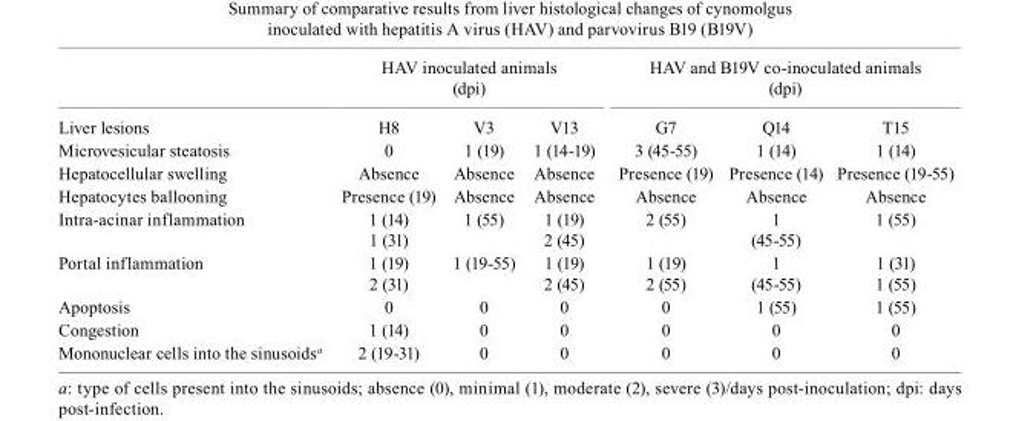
<table><thead><tr><td rowspan="2">Liver lesions</td><td colspan="3">HAV inoculated animals (dpi)</td><td colspan="3">HAV and B19V co-inoculated animals (dpi)</td></tr><tr><td>H8</td><td>V3</td><td>V13</td><td>G7</td><td>Q14</td><td>T15</td></tr></thead><tbody><tr><td>Microvesicular steatosis</td><td>0</td><td>1 (19)</td><td>1 (14-19)</td><td>3 (45-55)</td><td>1 (14)</td><td>1 (14)</td></tr><tr><td>Hepatocellular swelling</td><td>Absence</td><td>Absence</td><td>Absence</td><td>Presence (19)</td><td>Presence (14)</td><td>Presence (19-55)</td></tr><tr><td>Hepatocytes ballooning</td><td>Presence (19)</td><td>Absence</td><td>Absence</td><td>Absence</td><td>Absence</td><td>Absence</td></tr><tr><td>Intra-acinar inflammation</td><td>1 (14) 1 (31)</td><td>1 (55)</td><td>1 (19) 2 (45)</td><td>2 (55)</td><td>1 (45-55)</td><td>1 (55)</td></tr><tr><td>Portal inflammation</td><td>1 (19) 2 (31)</td><td>1 (19-55)</td><td>1 (19) 2 (45)</td><td>1 (19) 2 (55)</td><td>1 (45-55)</td><td>1 (31) 1 (55)</td></tr><tr><td>Apoptosis</td><td>0</td><td>0</td><td>0</td><td>0</td><td>1 (55)</td><td>1 (55)</td></tr><tr><td>Congestion</td><td>1 (14)</td><td>0</td><td>0</td><td>0</td><td>0</td><td>0</td></tr><tr><td>Mononuclear cells into the sinusoids<sup>a</sup></td><td>2 (19-31)</td><td>0</td><td>0</td><td>0</td><td>0</td><td>0</td></tr></tbody></table>